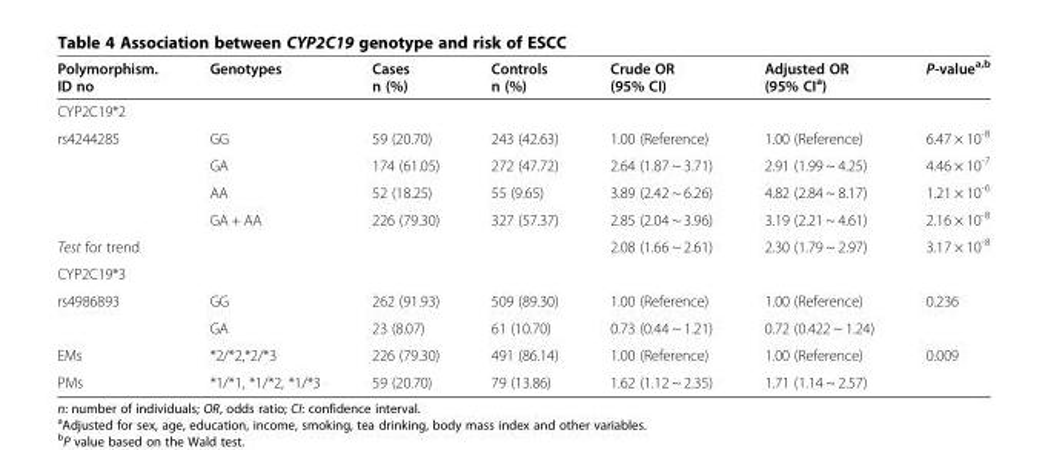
<table><thead><tr><td>Polymorphism. ID no</td><td>Genotypes</td><td>Cases n (%)</td><td>Controls n (%)</td><td>Crude OR (95% CI)</td><td>Adjusted OR (95% CI<sup>a</sup>)</td><td>P-value<sup>a,b</sup></td></tr></thead><tbody><tr><td colspan="7">CYP2C19*2</td></tr><tr><td rowspan="4">rs4244285</td><td>GG</td><td>59 (20.70)</td><td>243 (42.63)</td><td>1.00 (Reference)</td><td>1.00 (Reference)</td><td>6.47 × 10<sup>-8</sup></td></tr><tr><td>GA</td><td>174 (61.05)</td><td>272 (47.72)</td><td>2.64 (1.87 ~ 3.71)</td><td>2.91 (1.99 ~ 4.25)</td><td>4.46 × 10<sup>-7</sup></td></tr><tr><td>AA</td><td>52 (18.25)</td><td>55 (9.65)</td><td>3.89 (2.42 ~ 6.26)</td><td>4.82 (2.84 ~ 8.17)</td><td>1.21 × 10<sup>-6</sup></td></tr><tr><td>GA + AA</td><td>226 (79.30)</td><td>327 (57.37)</td><td>2.85 (2.04 ~ 3.96)</td><td>3.19 (2.21 ~ 4.61)</td><td>2.16 × 10<sup>-8</sup></td></tr><tr><td>Test for trend</td><td></td><td></td><td></td><td>2.08 (1.66 ~ 2.61)</td><td>2.30 (1.79 ~ 2.97)</td><td>3.17 × 10<sup>-8</sup></td></tr><tr><td colspan="7">CYP2C19*3</td></tr><tr><td rowspan="2">rs4986893</td><td>GG</td><td>262 (91.93)</td><td>509 (89.30)</td><td>1.00 (Reference)</td><td>1.00 (Reference)</td><td>0.236</td></tr><tr><td>GA</td><td>23 (8.07)</td><td>61 (10.70)</td><td>0.73 (0.44 ~ 1.21)</td><td>0.72 (0.422 ~ 1.24)</td><td></td></tr><tr><td>EMs</td><td>*2/*2,*2/*3</td><td>226 (79.30)</td><td>491 (86.14)</td><td>1.00 (Reference)</td><td>1.00 (Reference)</td><td>0.009</td></tr><tr><td>PMs</td><td>*1/*1, *1/*2, *1/*3</td><td>59 (20.70)</td><td>79 (13.86)</td><td>1.62 (1.12 ~ 2.35)</td><td>1.71 (1.14 ~ 2.57)</td><td></td></tr></tbody></table>